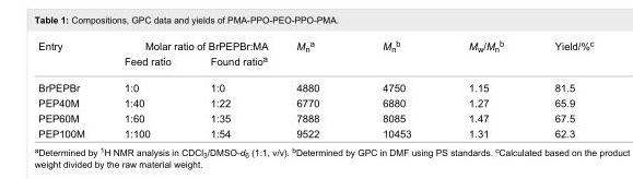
<table><tbody><tr><td rowspan="2">Entry</td><td colspan="2">Molar ratio of BrPEPBr:MA</td><td rowspan="2">M<sub>n</sub><sup>a</sup></td><td rowspan="2">M<sub>n</sub><sup>b</sup></td><td rowspan="2">M<sub>w</sub>/M<sub>n</sub><sup>b</sup></td><td rowspan="2">Yield/%<sup>c</sup></td></tr><tr><td>Feed ratio</td><td>Found ratio<sup>a</sup></td></tr><tr><td>BrPEPBr</td><td>1:0</td><td>1:0</td><td>4880</td><td>4750</td><td>1.15</td><td>81.5</td></tr><tr><td>PEP40M</td><td>1:40</td><td>1:22</td><td>6770</td><td>6880</td><td>1.27</td><td>65.9</td></tr><tr><td>PEP60M</td><td>1:60</td><td>1:35</td><td>7888</td><td>8085</td><td>1.47</td><td>67.5</td></tr><tr><td>PEP100M</td><td>1:100</td><td>1:54</td><td>9522</td><td>10453</td><td>1.31</td><td>62.3</td></tr></tbody></table>